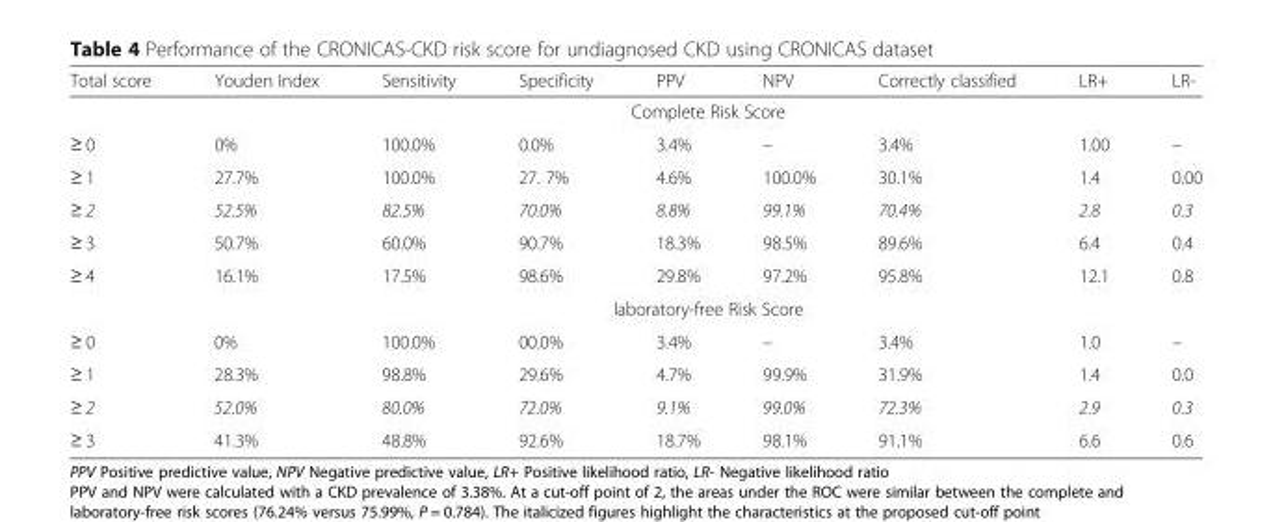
<table><thead><tr><td>Total score</td><td>Youden Index</td><td>Sensitivity</td><td>Specificity</td><td>PPV</td><td>NPV</td><td>Correctly classified</td><td>LR+</td><td>LR-</td></tr></thead><tbody><tr><td></td><td colspan="8">Complete Risk Score</td></tr><tr><td>≥ 0</td><td>0%</td><td>100.0%</td><td>0.0%</td><td>3.4%</td><td>–</td><td>3.4%</td><td>1.00</td><td>–</td></tr><tr><td>≥ 1</td><td>27.7%</td><td>100.0%</td><td>27. 7%</td><td>4.6%</td><td>100.0%</td><td>30.1%</td><td>1.4</td><td>0.00</td></tr><tr><td>≥ 2</td><td>52.5%</td><td>82.5%</td><td>70.0%</td><td>8.8%</td><td>99.1%</td><td>70.4%</td><td>2.8</td><td>0.3</td></tr><tr><td>≥ 3</td><td>50.7%</td><td>60.0%</td><td>90.7%</td><td>18.3%</td><td>98.5%</td><td>89.6%</td><td>6.4</td><td>0.4</td></tr><tr><td rowspan="2">≥ 4</td><td>16.1%</td><td>17.5%</td><td>98.6%</td><td>29.8%</td><td>97.2%</td><td>95.8%</td><td>12.1</td><td>0.8</td></tr><tr><td colspan="8">laboratory-free Risk Score</td></tr><tr><td>≥ 0</td><td>0%</td><td>100.0%</td><td>00.0%</td><td>3.4%</td><td>–</td><td>3.4%</td><td>1.0</td><td>–</td></tr><tr><td>≥ 1</td><td>28.3%</td><td>98.8%</td><td>29.6%</td><td>4.7%</td><td>99.9%</td><td>31.9%</td><td>1.4</td><td>0.0</td></tr><tr><td>≥ 2</td><td>52.0%</td><td>80.0%</td><td>72.0%</td><td>9.1%</td><td>99.0%</td><td>72.3%</td><td>2.9</td><td>0.3</td></tr><tr><td>≥ 3</td><td>41.3%</td><td>48.8%</td><td>92.6%</td><td>18.7%</td><td>98.1%</td><td>91.1%</td><td>6.6</td><td>0.6</td></tr></tbody></table>